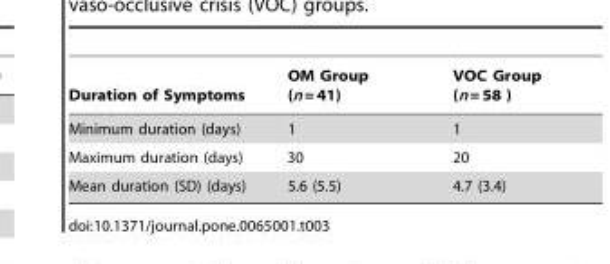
<table><thead><tr><td>Duration of Symptoms</td><td>OM Group (n = 41)</td><td>VOC Group (n = 58 )</td></tr></thead><tbody><tr><td>Minimum duration (days)</td><td>1</td><td>1</td></tr><tr><td>Maximum duration (days)</td><td>30</td><td>20</td></tr><tr><td>Mean duration (SD) (days)</td><td>5.6 (5.5)</td><td>4.7 (3.4)</td></tr></tbody></table>